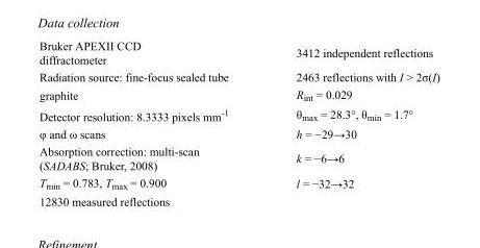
<table><tbody><tr><td>Bruker APEXII CCD diffractometer</td><td>3412 independent reflections</td></tr><tr><td>Radiation source: fine-focus sealed tube</td><td>2463 reflections with I &gt; 2σ(I)</td></tr><tr><td>graphite</td><td>R<sub>int</sub> = 0.029</td></tr><tr><td>Detector resolution: 8.3333 pixels mm<sup>-1</sup></td><td>θ<sub>max</sub> = 28.3°, θ<sub>min</sub> = 1.7°</td></tr><tr><td>φ and ω scans</td><td>h = −29→30</td></tr><tr><td>Absorption correction: multi-scan (SADABS; Bruker, 2008)</td><td>k = −6→6</td></tr><tr><td>T<sub>min</sub> = 0.783, T<sub>max</sub> = 0.900</td><td>l = −32→32</td></tr><tr><td>12830 measured reflections</td><td></td></tr></tbody></table>